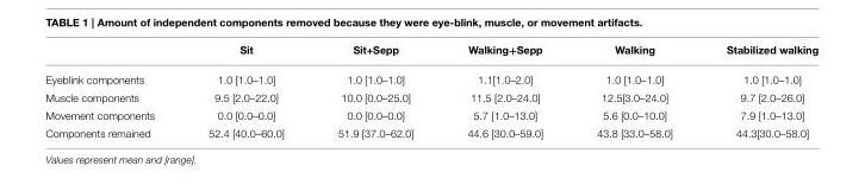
<table><thead><tr><td></td><td>Sit</td><td>Sit+Sepp</td><td>Walking+Sepp</td><td>Walking</td><td>Stabilized walking</td></tr></thead><tbody><tr><td>Eyeblink components</td><td>1.0 [1.0–1.0]</td><td>1.0 [1.0–1.0]</td><td>1.1[1.0–2.0]</td><td>1.0 [1.0–1.0]</td><td>1.0 [1.0–1.0]</td></tr><tr><td>Muscle components</td><td>9.5 [2.0–22.0]</td><td>10.0 [0.0–25.0]</td><td>11.5 [2.0–24.0]</td><td>12.5[3.0–24.0]</td><td>9.7 [2.0–26.0]</td></tr><tr><td>Movement components</td><td>0.0 [0.0–0.0]</td><td>0.0 [0.0–0.0]</td><td>5.7 [1.0–13.0]</td><td>5.6 [0.0–10.0]</td><td>7.9 [1.0–13.0]</td></tr><tr><td>Components remained</td><td>52.4 [40.0–60.0]</td><td>51.9 [37.0–62.0]</td><td>44.6 [30.0–59.0]</td><td>43.8 [33.0–58.0]</td><td>44.3[30.0–58.0]</td></tr></tbody></table>